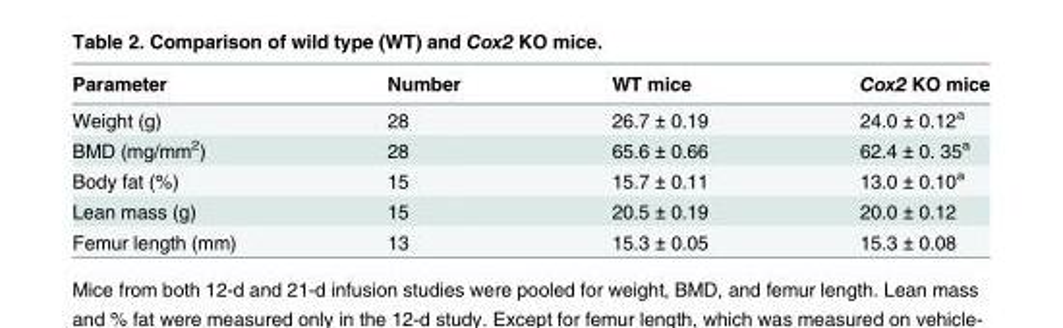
<table><thead><tr><td>Parameter</td><td>Number</td><td>WT mice</td><td>Cox2 KO mice</td></tr></thead><tbody><tr><td>Weight (g)</td><td>28</td><td>26.7 ± 0.19</td><td>24.0 ± 0.12<sup>a</sup></td></tr><tr><td>BMD (mg/mm<sup>2</sup>)</td><td>28</td><td>65.6 ± 0.66</td><td>62.4 ± 0. 35<sup>a</sup></td></tr><tr><td>Body fat (%)</td><td>15</td><td>15.7 ± 0.11</td><td>13.0 ± 0.10<sup>a</sup></td></tr><tr><td>Lean mass (g)</td><td>15</td><td>20.5 ± 0.19</td><td>20.0 ± 0.12</td></tr><tr><td>Femur length (mm)</td><td>13</td><td>15.3 ± 0.05</td><td>15.3 ± 0.08</td></tr></tbody></table>